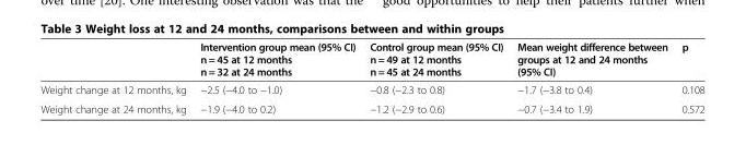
<table><thead><tr><td></td><td>Intervention group mean (95% CI) n = 45 at 12 months n = 32 at 24 months</td><td>Control group mean (95% CI) n = 49 at 12 months n = 45 at 24 months</td><td>Mean weight difference between groups at 12 and 24 months (95% CI)</td><td>p</td></tr></thead><tbody><tr><td>Weight change at 12 months, kg</td><td>−2.5 (−4.0 to −1.0)</td><td>−0.8 (−2.3 to 0.8)</td><td>−1.7 (−3.8 to 0.4)</td><td>0.108</td></tr><tr><td>Weight change at 24 months, kg</td><td>−1.9 (−4.0 to 0.2)</td><td>−1.2 (−2.9 to 0.6)</td><td>−0.7 (−3.4 to 1.9)</td><td>0.572</td></tr></tbody></table>